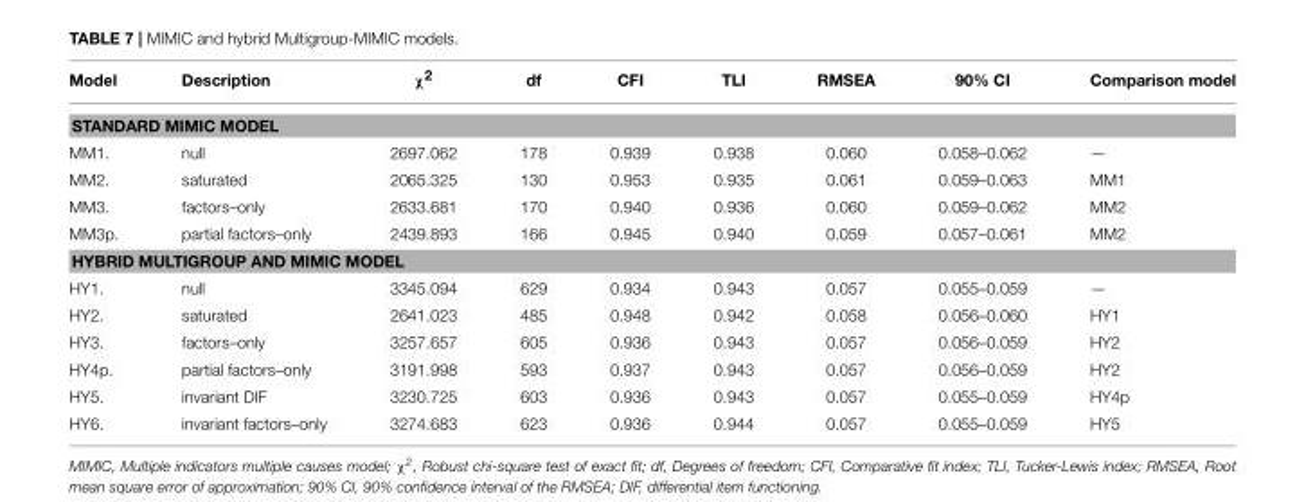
<table><thead><tr><td>Model</td><td>Description</td><td>χ<sup>2</sup></td><td>df</td><td>CFI</td><td>TLI</td><td>RMSEA</td><td>90% CI</td><td>Comparison model</td></tr></thead><tbody><tr><td colspan="9">STANDARD MIMIC MODEL</td></tr><tr><td>MM1.</td><td>null</td><td>2697.062</td><td>178</td><td>0.939</td><td>0.938</td><td>0.060</td><td>0.058–0.062</td><td>—</td></tr><tr><td>MM2.</td><td>saturated</td><td>2065.325</td><td>130</td><td>0.953</td><td>0.935</td><td>0.061</td><td>0.059–0.063</td><td>MM1</td></tr><tr><td>MM3.</td><td>factors–only</td><td>2633.681</td><td>170</td><td>0.940</td><td>0.936</td><td>0.060</td><td>0.059–0.062</td><td>MM2</td></tr><tr><td>MM3p.</td><td>partial factors–only</td><td>2439.893</td><td>166</td><td>0.945</td><td>0.940</td><td>0.059</td><td>0.057–0.061</td><td>MM2</td></tr><tr><td colspan="9">HYBRID MULTIGROUP AND MIMIC MODEL</td></tr><tr><td>HY1.</td><td>null</td><td>3345.094</td><td>629</td><td>0.934</td><td>0.943</td><td>0.057</td><td>0.055–0.059</td><td>—</td></tr><tr><td>HY2.</td><td>saturated</td><td>2641.023</td><td>485</td><td>0.948</td><td>0.942</td><td>0.058</td><td>0.056–0.060</td><td>HY1</td></tr><tr><td>HY3.</td><td>factors–only</td><td>3257.657</td><td>605</td><td>0.936</td><td>0.943</td><td>0.057</td><td>0.056–0.059</td><td>HY2</td></tr><tr><td>HY4p.</td><td>partial factors–only</td><td>3191.998</td><td>593</td><td>0.937</td><td>0.943</td><td>0.057</td><td>0.056–0.059</td><td>HY2</td></tr><tr><td>HY5.</td><td>invariant DIF</td><td>3230.725</td><td>603</td><td>0.936</td><td>0.943</td><td>0.057</td><td>0.055–0.059</td><td>HY4p</td></tr><tr><td>HY6.</td><td>invariant factors–only</td><td>3274.683</td><td>623</td><td>0.936</td><td>0.944</td><td>0.057</td><td>0.055–0.059</td><td>HY5</td></tr></tbody></table>